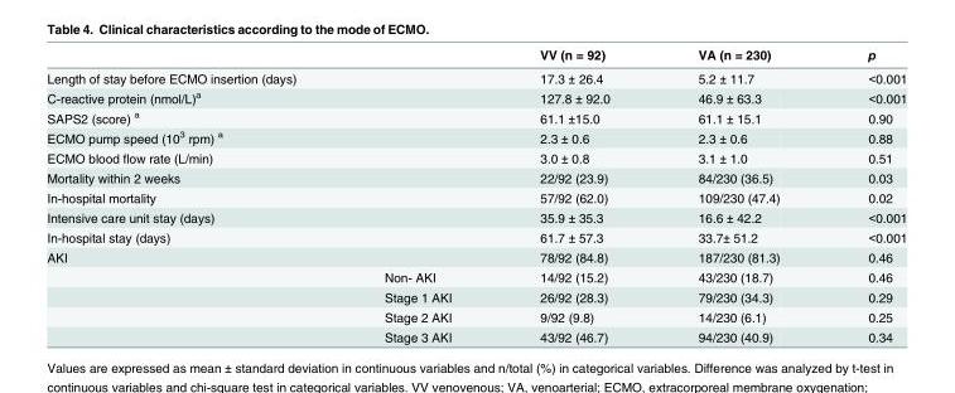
<table><thead><tr><td></td><td></td><td>VV (n = 92)</td><td>VA (n = 230)</td><td>p</td></tr></thead><tbody><tr><td>Length of stay before ECMO insertion (days)</td><td></td><td>17.3 ± 26.4</td><td>5.2 ± 11.7</td><td>&lt;0.001</td></tr><tr><td>C-reactive protein (nmol/L)<sup>a</sup></td><td></td><td>127.8 ± 92.0</td><td>46.9 ± 63.3</td><td>&lt;0.001</td></tr><tr><td>SAPS2 (score) <sup>a</sup></td><td></td><td>61.1 ±15.0</td><td>61.1 ± 15.1</td><td>0.90</td></tr><tr><td>ECMO pump speed (10<sup>3</sup> rpm) <sup>a</sup></td><td></td><td>2.3 ± 0.6</td><td>2.3 ± 0.6</td><td>0.88</td></tr><tr><td>ECMO blood flow rate (L/min)</td><td></td><td>3.0 ± 0.8</td><td>3.1 ± 1.0</td><td>0.51</td></tr><tr><td>Mortality within 2 weeks</td><td></td><td>22/92 (23.9)</td><td>84/230 (36.5)</td><td>0.03</td></tr><tr><td>In-hospital mortality</td><td></td><td>57/92 (62.0)</td><td>109/230 (47.4)</td><td>0.02</td></tr><tr><td>Intensive care unit stay (days)</td><td></td><td>35.9 ± 35.3</td><td>16.6 ± 42.2</td><td>&lt;0.001</td></tr><tr><td>In-hospital stay (days)</td><td></td><td>61.7 ± 57.3</td><td>33.7± 51.2</td><td>&lt;0.001</td></tr><tr><td rowspan="5">AKI</td><td></td><td>78/92 (84.8)</td><td>187/230 (81.3)</td><td>0.46</td></tr><tr><td>Non- AKI</td><td>14/92 (15.2)</td><td>43/230 (18.7)</td><td>0.46</td></tr><tr><td>Stage 1 AKI</td><td>26/92 (28.3)</td><td>79/230 (34.3)</td><td>0.29</td></tr><tr><td>Stage 2 AKI</td><td>9/92 (9.8)</td><td>14/230 (6.1)</td><td>0.25</td></tr><tr><td>Stage 3 AKI</td><td>43/92 (46.7)</td><td>94/230 (40.9)</td><td>0.34</td></tr></tbody></table>